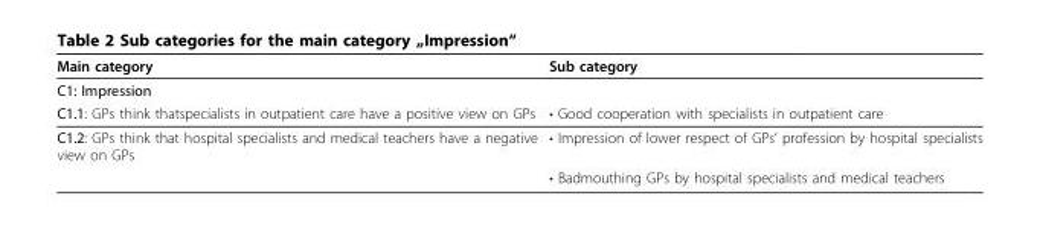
<table><thead><tr><td>Main category</td><td>Sub category</td></tr></thead><tbody><tr><td colspan="2">C1: Impression</td></tr><tr><td>C1.1: GPs think thatspecialists in outpatient care have a positive view on GPs</td><td>• Good cooperation with specialists in outpatient care</td></tr><tr><td rowspan="2">C1.2: GPs think that hospital specialists and medical teachers have a negative view on GPs</td><td>• Impression of lower respect of GPs’ profession by hospital specialists</td></tr><tr><td>• Badmouthing GPs by hospital specialists and medical teachers</td></tr></tbody></table>